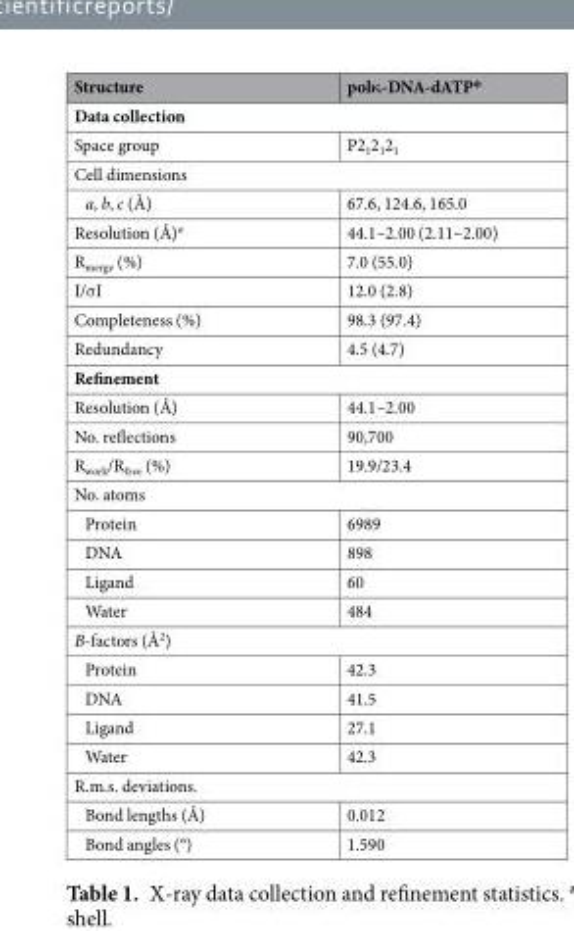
<table><thead><tr><td>Structure</td><td>polκ-DNA-dATP*</td></tr></thead><tbody><tr><td colspan="2">Data collection</td></tr><tr><td>Space group</td><td>P2<sub>1</sub>2<sub>1</sub>2<sub>1</sub></td></tr><tr><td colspan="2">Cell dimensions</td></tr><tr><td>a, b, c (Å)</td><td>67.6, 124.6, 165.0</td></tr><tr><td>Resolution (Å)<sup>a</sup></td><td>44.1–2.00 (2.11–2.00)</td></tr><tr><td>R<sub>merge</sub> (%)</td><td>7.0 (55.0)</td></tr><tr><td>I/σI</td><td>12.0 (2.8)</td></tr><tr><td>Completeness (%)</td><td>98.3 (97.4)</td></tr><tr><td>Redundancy</td><td>4.5 (4.7)</td></tr><tr><td colspan="2">Refinement</td></tr><tr><td>Resolution (Å)</td><td>44.1–2.00</td></tr><tr><td>No. reflections</td><td>90,700</td></tr><tr><td>R<sub>work</sub>/R<sub>free</sub> (%)</td><td>19.9/23.4</td></tr><tr><td colspan="2">No. atoms</td></tr><tr><td>Protein</td><td>6989</td></tr><tr><td>DNA</td><td>898</td></tr><tr><td>Ligand</td><td>60</td></tr><tr><td>Water</td><td>484</td></tr><tr><td colspan="2">B-factors (Å<sup>2</sup>)</td></tr><tr><td>Protein</td><td>42.3</td></tr><tr><td>DNA</td><td>41.5</td></tr><tr><td>Ligand</td><td>27.1</td></tr><tr><td>Water</td><td>42.3</td></tr><tr><td colspan="2">R.m.s. deviations.</td></tr><tr><td>Bond lengths (Å)</td><td>0.012</td></tr><tr><td>Bond angles (°)</td><td>1.590</td></tr></tbody></table>